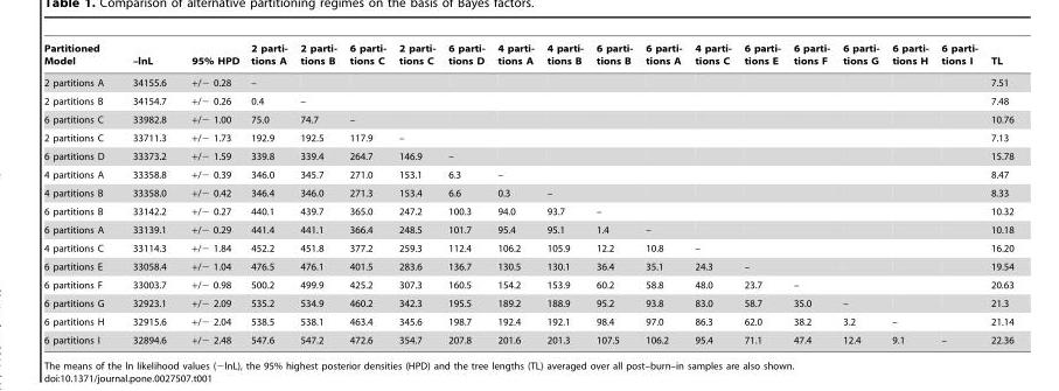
<table><thead><tr><td>Partitioned Model</td><td>–lnL</td><td>95% HPD</td><td>2 parti- tions A</td><td>2 parti- tions B</td><td>6 parti- tions C</td><td>2 parti- tions C</td><td>6 parti- tions D</td><td>4 parti- tions A</td><td>4 parti- tions B</td><td>6 parti- tions B</td><td>6 parti- tions A</td><td>4 parti- tions C</td><td>6 parti- tions E</td><td>6 parti- tions F</td><td>6 parti- tions G</td><td>6 parti- tions H</td><td>6 parti- tions I</td><td>TL</td></tr></thead><tbody><tr><td>2 partitions A</td><td>34155.6</td><td>+/− 0.28</td><td>–</td><td></td><td></td><td></td><td></td><td></td><td></td><td></td><td></td><td></td><td></td><td></td><td></td><td></td><td></td><td>7.51</td></tr><tr><td>2 partitions B</td><td>34154.7</td><td>+/− 0.26</td><td>0.4</td><td>–</td><td></td><td></td><td></td><td></td><td></td><td></td><td></td><td></td><td></td><td></td><td></td><td></td><td></td><td>7.48</td></tr><tr><td>6 partitions C</td><td>33982.8</td><td>+/− 1.00</td><td>75.0</td><td>74.7</td><td>–</td><td></td><td></td><td></td><td></td><td></td><td></td><td></td><td></td><td></td><td></td><td></td><td></td><td>10.76</td></tr><tr><td>2 partitions C</td><td>33711.3</td><td>+/− 1.73</td><td>192.9</td><td>192.5</td><td>117.9</td><td>–</td><td></td><td></td><td></td><td></td><td></td><td></td><td></td><td></td><td></td><td></td><td></td><td>7.13</td></tr><tr><td>6 partitions D</td><td>33373.2</td><td>+/− 1.59</td><td>339.8</td><td>339.4</td><td>264.7</td><td>146.9</td><td>–</td><td></td><td></td><td></td><td></td><td></td><td></td><td></td><td></td><td></td><td></td><td>15.78</td></tr><tr><td>4 partitions A</td><td>33358.8</td><td>+/− 0.39</td><td>346.0</td><td>345.7</td><td>271.0</td><td>153.1</td><td>6.3</td><td>–</td><td></td><td></td><td></td><td></td><td></td><td></td><td></td><td></td><td></td><td>8.47</td></tr><tr><td>4 partitions B</td><td>33358.0</td><td>+/− 0.42</td><td>346.4</td><td>346.0</td><td>271.3</td><td>153.4</td><td>6.6</td><td>0.3</td><td>–</td><td></td><td></td><td></td><td></td><td></td><td></td><td></td><td></td><td>8.33</td></tr><tr><td>6 partitions B</td><td>33142.2</td><td>+/− 0.27</td><td>440.1</td><td>439.7</td><td>365.0</td><td>247.2</td><td>100.3</td><td>94.0</td><td>93.7</td><td>–</td><td></td><td></td><td></td><td></td><td></td><td></td><td></td><td>10.32</td></tr><tr><td>6 partitions A</td><td>33139.1</td><td>+/− 0.29</td><td>441.4</td><td>441.1</td><td>366.4</td><td>248.5</td><td>101.7</td><td>95.4</td><td>95.1</td><td>1.4</td><td>–</td><td></td><td></td><td></td><td></td><td></td><td></td><td>10.18</td></tr><tr><td>4 partitions C</td><td>33114.3</td><td>+/− 1.84</td><td>452.2</td><td>451.8</td><td>377.2</td><td>259.3</td><td>112.4</td><td>106.2</td><td>105.9</td><td>12.2</td><td>10.8</td><td>–</td><td></td><td></td><td></td><td></td><td></td><td>16.20</td></tr><tr><td>6 partitions E</td><td>33058.4</td><td>+/− 1.04</td><td>476.5</td><td>476.1</td><td>401.5</td><td>283.6</td><td>136.7</td><td>130.5</td><td>130.1</td><td>36.4</td><td>35.1</td><td>24.3</td><td>–</td><td></td><td></td><td></td><td></td><td>19.54</td></tr><tr><td>6 partitions F</td><td>33003.7</td><td>+/− 0.98</td><td>500.2</td><td>499.9</td><td>425.2</td><td>307.3</td><td>160.5</td><td>154.2</td><td>153.9</td><td>60.2</td><td>58.8</td><td>48.0</td><td>23.7</td><td>–</td><td></td><td></td><td></td><td>20.63</td></tr><tr><td>6 partitions G</td><td>32923.1</td><td>+/− 2.09</td><td>535.2</td><td>534.9</td><td>460.2</td><td>342.3</td><td>195.5</td><td>189.2</td><td>188.9</td><td>95.2</td><td>93.8</td><td>83.0</td><td>58.7</td><td>35.0</td><td>–</td><td></td><td></td><td>21.3</td></tr><tr><td>6 partitions H</td><td>32915.6</td><td>+/− 2.04</td><td>538.5</td><td>538.1</td><td>463.4</td><td>345.6</td><td>198.7</td><td>192.4</td><td>192.1</td><td>98.4</td><td>97.0</td><td>86.3</td><td>62.0</td><td>38.2</td><td>3.2</td><td>–</td><td></td><td>21.14</td></tr><tr><td>6 partitions I</td><td>32894.6</td><td>+/− 2.48</td><td>547.6</td><td>547.2</td><td>472.6</td><td>354.7</td><td>207.8</td><td>201.6</td><td>201.3</td><td>107.5</td><td>106.2</td><td>95.4</td><td>71.1</td><td>47.4</td><td>12.4</td><td>9.1</td><td>–</td><td>22.36</td></tr></tbody></table>